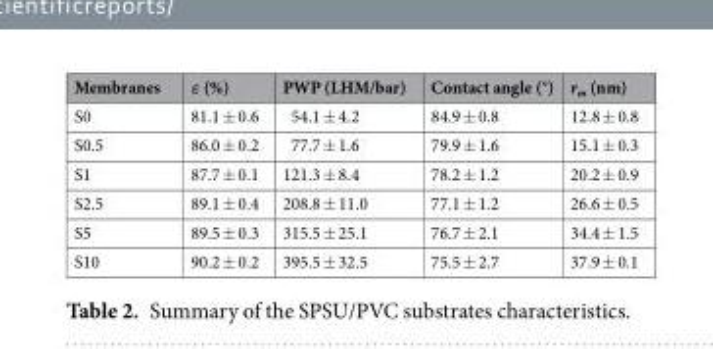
<table><thead><tr><td>Membranes</td><td>ε (%)</td><td>PWP (LHM/bar)</td><td>Contact angle (°)</td><td>r<sub>m</sub> (nm)</td></tr></thead><tbody><tr><td>S0</td><td>81.1 ± 0.6</td><td>54.1 ± 4.2</td><td>84.9 ± 0.8</td><td>12.8 ± 0.8</td></tr><tr><td>S0.5</td><td>86.0 ± 0.2</td><td>77.7 ± 1.6</td><td>79.9 ± 1.6</td><td>15.1 ± 0.3</td></tr><tr><td>S1</td><td>87.7 ± 0.1</td><td>121.3 ± 8.4</td><td>78.2 ± 1.2</td><td>20.2 ± 0.9</td></tr><tr><td>S2.5</td><td>89.1 ± 0.4</td><td>208.8 ± 11.0</td><td>77.1 ± 1.2</td><td>26.6 ± 0.5</td></tr><tr><td>S5</td><td>89.5 ± 0.3</td><td>315.5 ± 25.1</td><td>76.7 ± 2.1</td><td>34.4 ± 1.5</td></tr><tr><td>S10</td><td>90.2 ± 0.2</td><td>395.5 ± 32.5</td><td>75.5 ± 2.7</td><td>37.9 ± 0.1</td></tr></tbody></table>